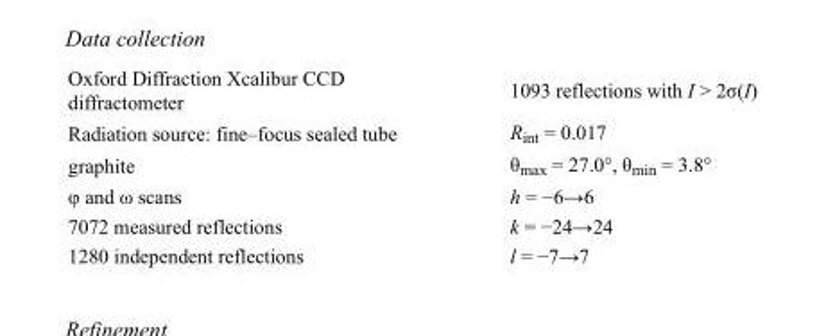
<table><tbody><tr><td>Oxford Diffraction Xcalibur CCD diffractometer</td><td>1093 reflections with I &gt; 2σ(I)</td></tr><tr><td>Radiation source: fine–focus sealed tube</td><td>R<sub>int</sub> = 0.017</td></tr><tr><td>graphite</td><td>θ<sub>max</sub> = 27.0°, θ<sub>min</sub> = 3.8°</td></tr><tr><td>φ and ω scans</td><td>h = −6→6</td></tr><tr><td>7072 measured reflections</td><td>k = −24→24</td></tr><tr><td>1280 independent reflections</td><td>l = −7→7</td></tr></tbody></table>